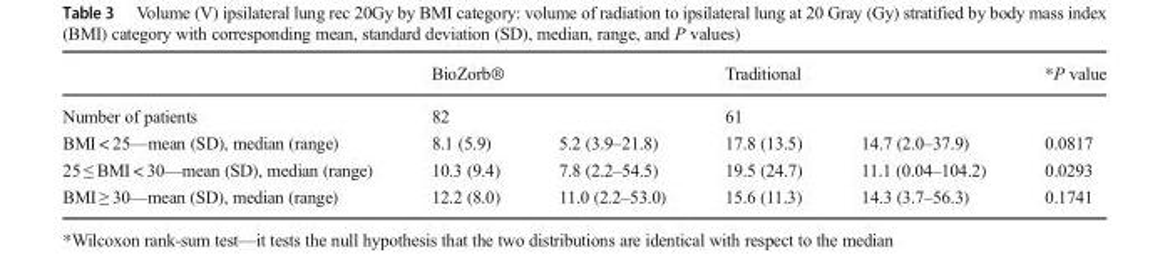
<table><thead><tr><td rowspan="3">Number of patients BMI &lt; 25—mean (SD), median (range)</td><td rowspan="2" colspan="2">BioZorb® 82</td><td rowspan="2" colspan="2">Traditional 61</td><td rowspan="3">*P value 0.0817</td></tr><tr></tr><tr><td>8.1 (5.9)</td><td>5.2 (3.9–21.8)</td><td>17.8 (13.5)</td><td>14.7 (2.0–37.9)</td></tr></thead><tbody><tr><td>25 ≤ BMI &lt; 30—mean (SD), median (range)</td><td>10.3 (9.4)</td><td>7.8 (2.2–54.5)</td><td>19.5 (24.7)</td><td>11.1 (0.04–104.2)</td><td>0.0293</td></tr><tr><td>BMI ≥ 30—mean (SD), median (range)</td><td>12.2 (8.0)</td><td>11.0 (2.2–53.0)</td><td>15.6 (11.3)</td><td>14.3 (3.7–56.3)</td><td>0.1741</td></tr></tbody></table>